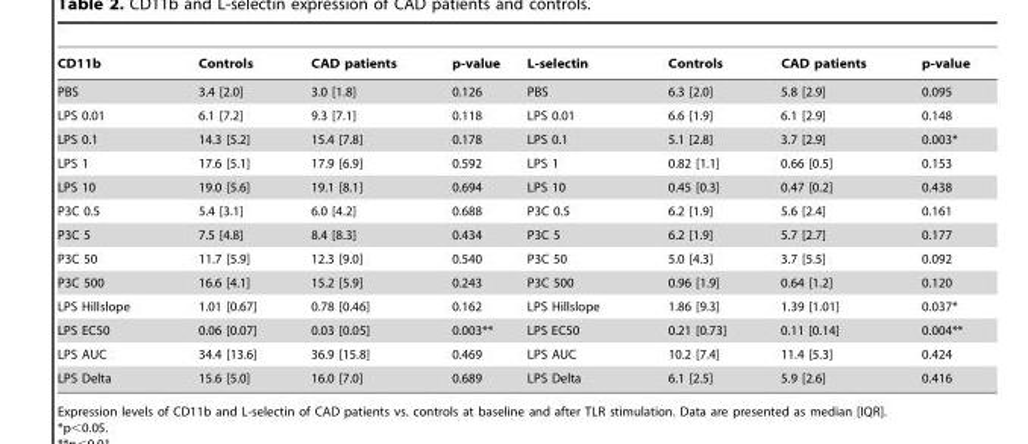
<table><thead><tr><td>CD11b</td><td>Controls</td><td>CAD patients</td><td>p-value</td><td>L-selectin</td><td>Controls</td><td>CAD patients</td><td>p-value</td></tr></thead><tbody><tr><td>PBS</td><td>3.4 [2.0]</td><td>3.0 [1.8]</td><td>0.126</td><td>PBS</td><td>6.3 [2.0]</td><td>5.8 [2.9]</td><td>0.095</td></tr><tr><td>LPS 0.01</td><td>6.1 [7.2]</td><td>9.3 [7.1]</td><td>0.118</td><td>LPS 0.01</td><td>6.6 [1.9]</td><td>6.1 [2.9]</td><td>0.148</td></tr><tr><td>LPS 0.1</td><td>14.3 [5.2]</td><td>15.4 [7.8]</td><td>0.178</td><td>LPS 0.1</td><td>5.1 [2.8]</td><td>3.7 [2.9]</td><td>0.003*</td></tr><tr><td>LPS 1</td><td>17.6 [5.1]</td><td>17.9 [6.9]</td><td>0.592</td><td>LPS 1</td><td>0.82 [1.1]</td><td>0.66 [0.5]</td><td>0.153</td></tr><tr><td>LPS 10</td><td>19.0 [5.6]</td><td>19.1 [8.1]</td><td>0.694</td><td>LPS 10</td><td>0.45 [0.3]</td><td>0.47 [0.2]</td><td>0.438</td></tr><tr><td>P3C 0.5</td><td>5.4 [3.1]</td><td>6.0 [4.2]</td><td>0.688</td><td>P3C 0.5</td><td>6.2 [1.9]</td><td>5.6 [2.4]</td><td>0.161</td></tr><tr><td>P3C 5</td><td>7.5 [4.8]</td><td>8.4 [8.3]</td><td>0.434</td><td>P3C 5</td><td>6.2 [1.9]</td><td>5.7 [2.7]</td><td>0.177</td></tr><tr><td>P3C 50</td><td>11.7 [5.9]</td><td>12.3 [9.0]</td><td>0.540</td><td>P3C 50</td><td>5.0 [4.3]</td><td>3.7 [5.5]</td><td>0.092</td></tr><tr><td>P3C 500</td><td>16.6 [4.1]</td><td>15.2 [5.9]</td><td>0.243</td><td>P3C 500</td><td>0.96 [1.9]</td><td>0.64 [1.2]</td><td>0.120</td></tr><tr><td>LPS Hillslope</td><td>1.01 [0.67]</td><td>0.78 [0.46]</td><td>0.162</td><td>LPS Hillslope</td><td>1.86 [9.3]</td><td>1.39 [1.01]</td><td>0.037*</td></tr><tr><td>LPS EC50</td><td>0.06 [0.07]</td><td>0.03 [0.05]</td><td>0.003**</td><td>LPS EC50</td><td>0.21 [0.73]</td><td>0.11 [0.14]</td><td>0.004**</td></tr><tr><td>LPS AUC</td><td>34.4 [13.6]</td><td>36.9 [15.8]</td><td>0.469</td><td>LPS AUC</td><td>10.2 [7.4]</td><td>11.4 [5.3]</td><td>0.424</td></tr><tr><td>LPS Delta</td><td>15.6 [5.0]</td><td>16.0 [7.0]</td><td>0.689</td><td>LPS Delta</td><td>6.1 [2.5]</td><td>5.9 [2.6]</td><td>0.416</td></tr></tbody></table>